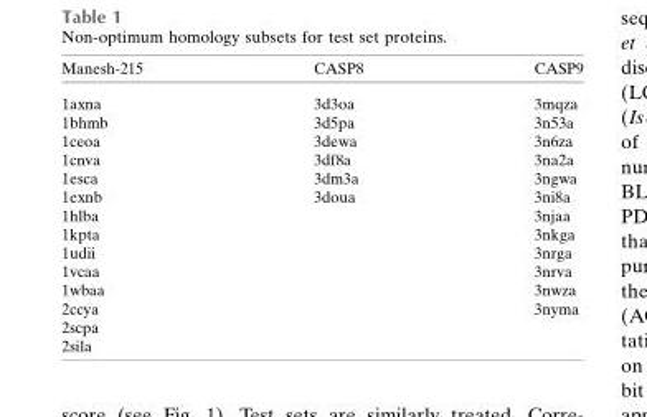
<table><thead><tr><td>Manesh-215</td><td>CASP8</td><td>CASP9</td></tr></thead><tbody><tr><td>1axna</td><td>3d3oa</td><td>3mqza</td></tr><tr><td>1bhmb</td><td>3d5pa</td><td>3n53a</td></tr><tr><td>1ceoa</td><td>3dewa</td><td>3n6za</td></tr><tr><td>1cnva</td><td>3df8a</td><td>3na2a</td></tr><tr><td>1esca</td><td>3dm3a</td><td>3ngwa</td></tr><tr><td>1exnb</td><td>3doua</td><td>3ni8a</td></tr><tr><td>1hlba</td><td></td><td>3njaa</td></tr><tr><td>1kpta</td><td></td><td>3nkga</td></tr><tr><td>1udii</td><td></td><td>3nrga</td></tr><tr><td>1vcaa</td><td></td><td>3nrva</td></tr><tr><td>1wbaa</td><td></td><td>3nwza</td></tr><tr><td>2ccya</td><td></td><td>3nyma</td></tr><tr><td colspan="3">2scpa</td></tr><tr><td>2sila</td><td></td><td></td></tr></tbody></table>